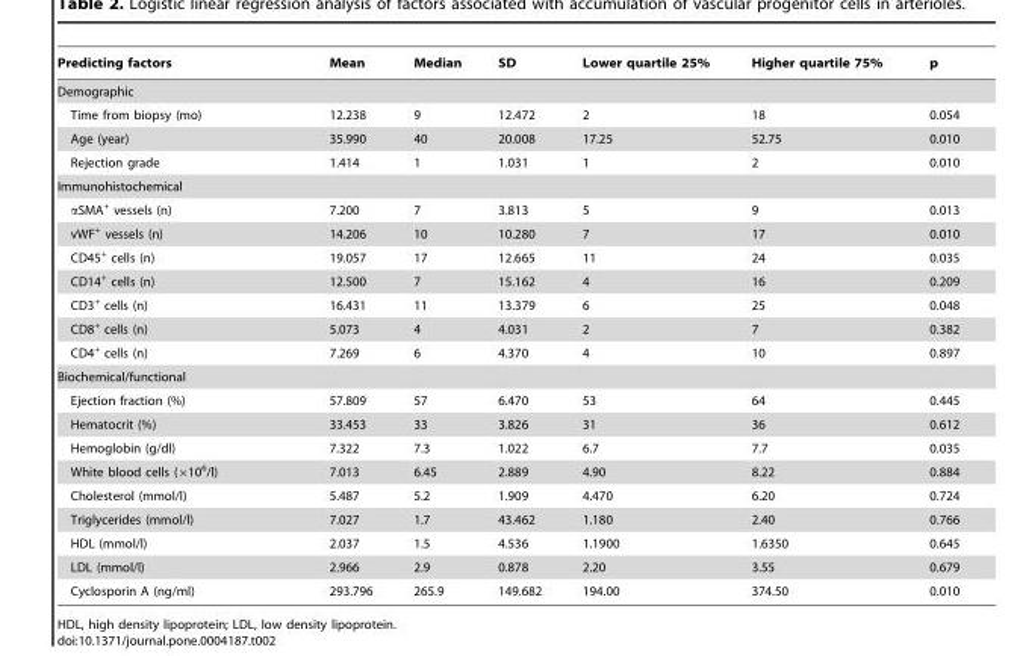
<table><thead><tr><td>Predicting factors</td><td>Mean</td><td>Median</td><td>SD</td><td>Lower quartile 25%</td><td>Higher quartile 75%</td><td>p</td></tr></thead><tbody><tr><td colspan="7">Demographic</td></tr><tr><td>Time from biopsy (mo)</td><td>12.238</td><td>9</td><td>12.472</td><td>2</td><td>18</td><td>0.054</td></tr><tr><td>Age (year)</td><td>35.990</td><td>40</td><td>20.008</td><td>17.25</td><td>52.75</td><td>0.010</td></tr><tr><td>Rejection grade</td><td>1.414</td><td>1</td><td>1.031</td><td>1</td><td>2</td><td>0.010</td></tr><tr><td colspan="7">Immunohistochemical</td></tr><tr><td>αSMA<sup>+</sup> vessels (n)</td><td>7.200</td><td>7</td><td>3.813</td><td>5</td><td>9</td><td>0.013</td></tr><tr><td>vWF<sup>+</sup> vessels (n)</td><td>14.206</td><td>10</td><td>10.280</td><td>7</td><td>17</td><td>0.010</td></tr><tr><td>CD45<sup>+</sup> cells (n)</td><td>19.057</td><td>17</td><td>12.665</td><td>11</td><td>24</td><td>0.035</td></tr><tr><td>CD14<sup>+</sup> cells (n)</td><td>12.500</td><td>7</td><td>15.162</td><td>4</td><td>16</td><td>0.209</td></tr><tr><td>CD3<sup>+</sup> cells (n)</td><td>16.431</td><td>11</td><td>13.379</td><td>6</td><td>25</td><td>0.048</td></tr><tr><td>CD8<sup>+</sup> cells (n)</td><td>5.073</td><td>4</td><td>4.031</td><td>2</td><td>7</td><td>0.382</td></tr><tr><td>CD4<sup>+</sup> cells (n)</td><td>7.269</td><td>6</td><td>4.370</td><td>4</td><td>10</td><td>0.897</td></tr><tr><td colspan="7">Biochemical/functional</td></tr><tr><td>Ejection fraction (%)</td><td>57.809</td><td>57</td><td>6.470</td><td>53</td><td>64</td><td>0.445</td></tr><tr><td>Hematocrit (%)</td><td>33.453</td><td>33</td><td>3.826</td><td>31</td><td>36</td><td>0.612</td></tr><tr><td>Hemoglobin (g/dl)</td><td>7.322</td><td>7.3</td><td>1.022</td><td>6.7</td><td>7.7</td><td>0.035</td></tr><tr><td>White blood cells (×10<sup>6</sup>/l)</td><td>7.013</td><td>6.45</td><td>2.889</td><td>4.90</td><td>8.22</td><td>0.884</td></tr><tr><td>Cholesterol (mmol/l)</td><td>5.487</td><td>5.2</td><td>1.909</td><td>4.470</td><td>6.20</td><td>0.724</td></tr><tr><td>Triglycerides (mmol/l)</td><td>7.027</td><td>1.7</td><td>43.462</td><td>1.180</td><td>2.40</td><td>0.766</td></tr><tr><td>HDL (mmol/l)</td><td>2.037</td><td>1.5</td><td>4.536</td><td>1.1900</td><td>1.6350</td><td>0.645</td></tr><tr><td>LDL (mmol/l)</td><td>2.966</td><td>2.9</td><td>0.878</td><td>2.20</td><td>3.55</td><td>0.679</td></tr><tr><td>Cyclosporin A (ng/ml)</td><td>293.796</td><td>265.9</td><td>149.682</td><td>194.00</td><td>374.50</td><td>0.010</td></tr></tbody></table>